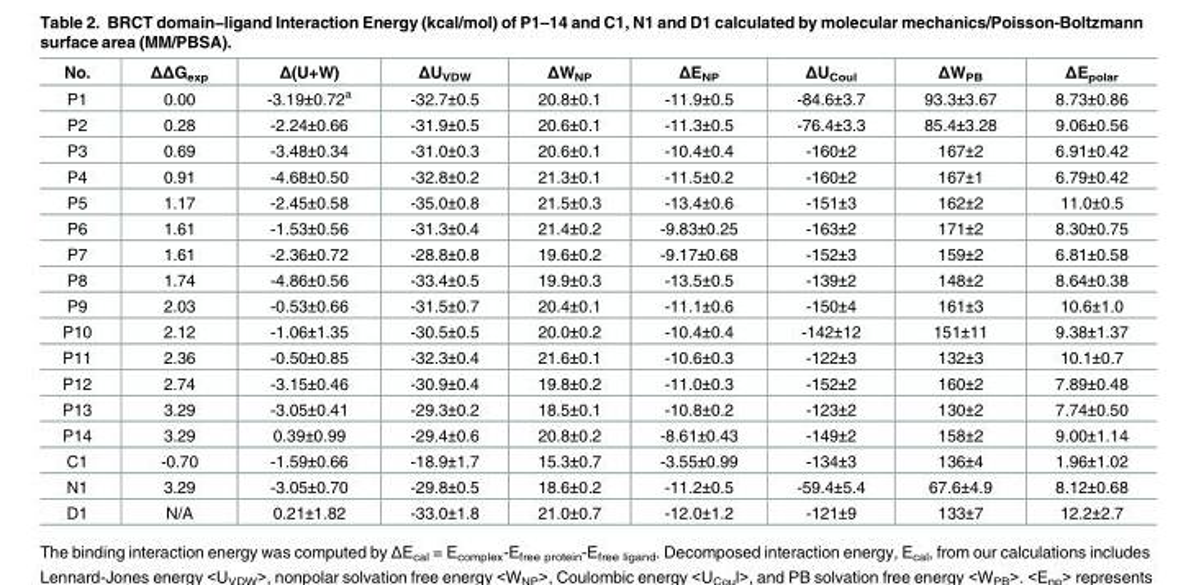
<table><thead><tr><td>No.</td><td>ΔΔG<sub>exp</sub></td><td>Δ(U+W)</td><td>ΔU<sub>VDW</sub></td><td>ΔW<sub>NP</sub></td><td>ΔE<sub>NP</sub></td><td>ΔU<sub>Coul</sub></td><td>ΔW<sub>PB</sub></td><td>ΔE<sub>polar</sub></td></tr></thead><tbody><tr><td>P1</td><td>0.00</td><td>-3.19±0.72<sup>a</sup></td><td>-32.7±0.5</td><td>20.8±0.1</td><td>-11.9±0.5</td><td>-84.6±3.7</td><td>93.3±3.67</td><td>8.73±0.86</td></tr><tr><td>P2</td><td>0.28</td><td>-2.24±0.66</td><td>-31.9±0.5</td><td>20.6±0.1</td><td>-11.3±0.5</td><td>-76.4±3.3</td><td>85.4±3.28</td><td>9.06±0.56</td></tr><tr><td>P3</td><td>0.69</td><td>-3.48±0.34</td><td>-31.0±0.3</td><td>20.6±0.1</td><td>-10.4±0.4</td><td>-160±2</td><td>167±2</td><td>6.91±0.42</td></tr><tr><td>P4</td><td>0.91</td><td>-4.68±0.50</td><td>-32.8±0.2</td><td>21.3±0.1</td><td>-11.5±0.2</td><td>-160±2</td><td>167±1</td><td>6.79±0.42</td></tr><tr><td>P5</td><td>1.17</td><td>-2.45±0.58</td><td>-35.0±0.8</td><td>21.5±0.3</td><td>-13.4±0.6</td><td>-151±3</td><td>162±2</td><td>11.0±0.5</td></tr><tr><td>P6</td><td>1.61</td><td>-1.53±0.56</td><td>-31.3±0.4</td><td>21.4±0.2</td><td>-9.83±0.25</td><td>-163±2</td><td>171±2</td><td>8.30±0.75</td></tr><tr><td>P7</td><td>1.61</td><td>-2.36±0.72</td><td>-28.8±0.8</td><td>19.6±0.2</td><td>-9.17±0.68</td><td>-152±3</td><td>159±2</td><td>6.81±0.58</td></tr><tr><td>P8</td><td>1.74</td><td>-4.86±0.56</td><td>-33.4±0.5</td><td>19.9±0.3</td><td>-13.5±0.5</td><td>-139±2</td><td>148±2</td><td>8.64±0.38</td></tr><tr><td>P9</td><td>2.03</td><td>-0.53±0.66</td><td>-31.5±0.7</td><td>20.4±0.1</td><td>-11.1±0.6</td><td>-150±4</td><td>161±3</td><td>10.6±1.0</td></tr><tr><td>P10</td><td>2.12</td><td>-1.06±1.35</td><td>-30.5±0.5</td><td>20.0±0.2</td><td>-10.4±0.4</td><td>-142±12</td><td>151±11</td><td>9.38±1.37</td></tr><tr><td>P11</td><td>2.36</td><td>-0.50±0.85</td><td>-32.3±0.4</td><td>21.6±0.1</td><td>-10.6±0.3</td><td>-122±3</td><td>132±3</td><td>10.1±0.7</td></tr><tr><td>P12</td><td>2.74</td><td>-3.15±0.46</td><td>-30.9±0.4</td><td>19.8±0.2</td><td>-11.0±0.3</td><td>-152±2</td><td>160±2</td><td>7.89±0.48</td></tr><tr><td>P13</td><td>3.29</td><td>-3.05±0.41</td><td>-29.3±0.2</td><td>18.5±0.1</td><td>-10.8±0.2</td><td>-123±2</td><td>130±2</td><td>7.74±0.50</td></tr><tr><td>P14</td><td>3.29</td><td>0.39±0.99</td><td>-29.4±0.6</td><td>20.8±0.2</td><td>-8.61±0.43</td><td>-149±2</td><td>158±2</td><td>9.00±1.14</td></tr><tr><td>C1</td><td>-0.70</td><td>-1.59±0.66</td><td>-18.9±1.7</td><td>15.3±0.7</td><td>-3.55±0.99</td><td>-134±3</td><td>136±4</td><td>1.96±1.02</td></tr><tr><td>N1</td><td>3.29</td><td>-3.05±0.70</td><td>-29.8±0.5</td><td>18.6±0.2</td><td>-11.2±0.5</td><td>-59.4±5.4</td><td>67.6±4.9</td><td>8.12±0.68</td></tr><tr><td>D1</td><td>N/A</td><td>0.21±1.82</td><td>-33.0±1.8</td><td>21.0±0.7</td><td>-12.0±1.2</td><td>-121±9</td><td>133±7</td><td>12.2±2.7</td></tr></tbody></table>